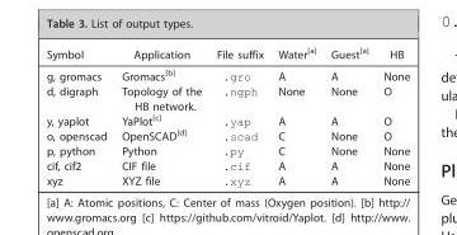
<table><thead><tr><td>Symbol</td><td>Application</td><td>File suffix</td><td>Water[a]</td><td>Guest[a]</td><td>HB</td></tr></thead><tbody><tr><td>g, gromacs</td><td>Gromacs[b]</td><td>.gro</td><td>A</td><td>A</td><td>None</td></tr><tr><td>d, digraph</td><td>Topology of the HB network.</td><td>.ngph</td><td>None</td><td>None</td><td>O</td></tr><tr><td>y, yaplot</td><td>YaPlot[c]</td><td>.yap</td><td>A</td><td>A</td><td>O</td></tr><tr><td>o, openscad</td><td>OpenSCAD[d]</td><td>.scad</td><td>C</td><td>None</td><td>O</td></tr><tr><td>p, python</td><td>Python</td><td>.py</td><td>C</td><td>None</td><td>None</td></tr><tr><td>cif, cif2</td><td>CIF file</td><td>.cif</td><td>A</td><td>A</td><td>None</td></tr><tr><td>xyz</td><td>XYZ file</td><td>.xyz</td><td>A</td><td>A</td><td>None</td></tr></tbody></table>